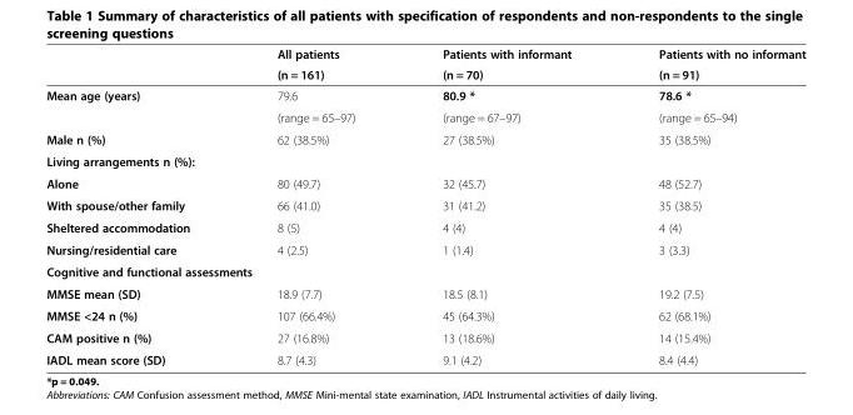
<table><thead><tr><td rowspan="2"></td><td rowspan="2">All patients (n = 161)</td><td rowspan="2">Patients with informant (n = 70)</td><td rowspan="2">Patients with no informant (n = 91)</td></tr><tr></tr></thead><tbody><tr><td rowspan="2">Mean age (years)</td><td>79.6</td><td>80.9 *</td><td>78.6 *</td></tr><tr><td>(range = 65–97)</td><td>(range = 67–97)</td><td>(range = 65–94)</td></tr><tr><td>Male n (%)</td><td>62 (38.5%)</td><td>27 (38.5%)</td><td>35 (38.5%)</td></tr><tr><td colspan="4">Living arrangements n (%):</td></tr><tr><td>Alone</td><td>80 (49.7)</td><td>32 (45.7)</td><td>48 (52.7)</td></tr><tr><td>With spouse/other family</td><td>66 (41.0)</td><td>31 (41.2)</td><td>35 (38.5)</td></tr><tr><td>Sheltered accommodation</td><td>8 (5)</td><td>4 (4)</td><td>4 (4)</td></tr><tr><td>Nursing/residential care</td><td>4 (2.5)</td><td>1 (1.4)</td><td>3 (3.3)</td></tr><tr><td colspan="4">Cognitive and functional assessments</td></tr><tr><td>MMSE mean (SD)</td><td>18.9 (7.7)</td><td>18.5 (8.1)</td><td>19.2 (7.5)</td></tr><tr><td>MMSE &lt;24 n (%)</td><td>107 (66.4%)</td><td>45 (64.3%)</td><td>62 (68.1%)</td></tr><tr><td>CAM positive n (%)</td><td>27 (16.8%)</td><td>13 (18.6%)</td><td>14 (15.4%)</td></tr><tr><td>IADL mean score (SD)</td><td>8.7 (4.3)</td><td>9.1 (4.2)</td><td>8.4 (4.4)</td></tr></tbody></table>